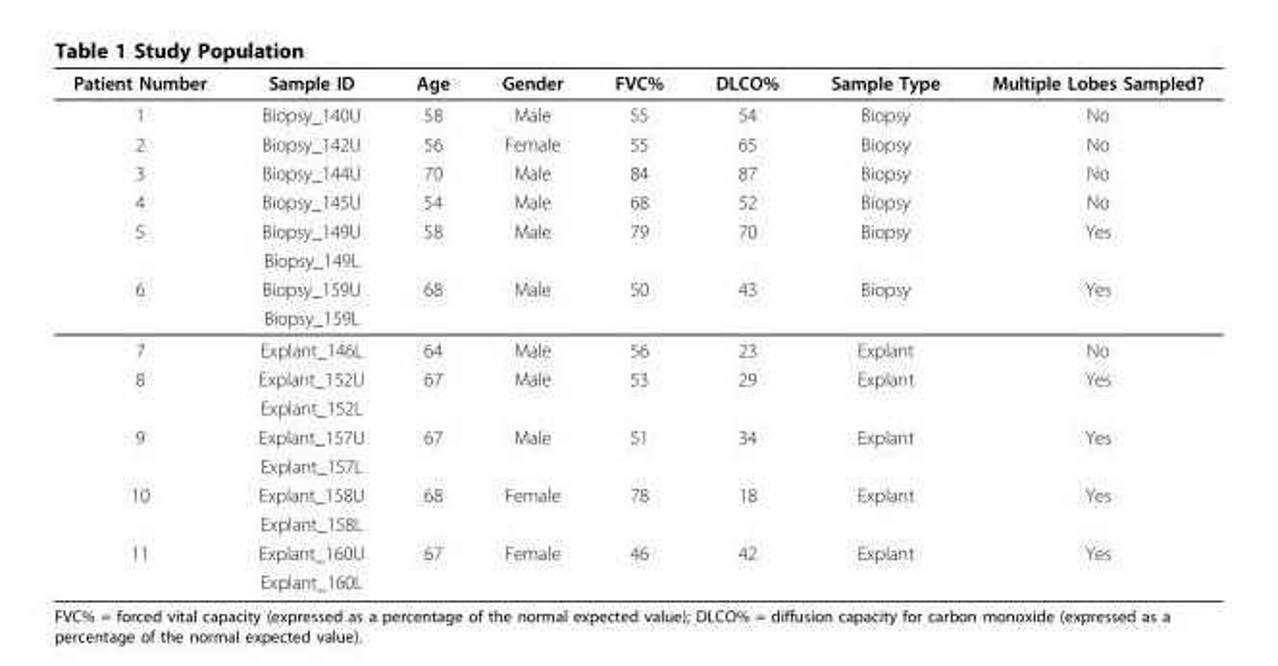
<table><thead><tr><td>Patient Number</td><td>Sample ID</td><td>Age</td><td>Gender</td><td>FVC%</td><td>DLCO%</td><td>Sample Type</td><td>Multiple Lobes Sampled?</td></tr></thead><tbody><tr><td>1</td><td>Biopsy_140U</td><td>58</td><td>Male</td><td>55</td><td>54</td><td>Biopsy</td><td>No</td></tr><tr><td>2</td><td>Biopsy_142U</td><td>56</td><td>Female</td><td>55</td><td>65</td><td>Biopsy</td><td>No</td></tr><tr><td>3</td><td>Biopsy_144U</td><td>70</td><td>Male</td><td>84</td><td>87</td><td>Biopsy</td><td>No</td></tr><tr><td>4</td><td>Biopsy_145U</td><td>54</td><td>Male</td><td>68</td><td>52</td><td>Biopsy</td><td>No</td></tr><tr><td rowspan="2">5</td><td>Biopsy_149U</td><td>58</td><td>Male</td><td>79</td><td>70</td><td>Biopsy</td><td>Yes</td></tr><tr><td>Biopsy_149L</td><td></td><td></td><td></td><td></td><td></td><td></td></tr><tr><td rowspan="2">6</td><td>Biopsy_159U</td><td>68</td><td>Male</td><td>50</td><td>43</td><td>Biopsy</td><td>Yes</td></tr><tr><td>Biopsy_159L</td><td></td><td></td><td></td><td></td><td></td><td></td></tr><tr><td>7</td><td>Explant_146L</td><td>64</td><td>Male</td><td>56</td><td>23</td><td>Explant</td><td>No</td></tr><tr><td rowspan="2">8</td><td>Explant_152U</td><td>67</td><td>Male</td><td>53</td><td>29</td><td>Explant</td><td>Yes</td></tr><tr><td>Explant_152L</td><td></td><td></td><td></td><td></td><td></td><td></td></tr><tr><td rowspan="2">9</td><td>Explant_157U</td><td>67</td><td>Male</td><td>51</td><td>34</td><td>Explant</td><td>Yes</td></tr><tr><td>Explant_157L</td><td></td><td></td><td></td><td></td><td></td><td></td></tr><tr><td rowspan="2">10</td><td>Explant_158U</td><td>68</td><td>Female</td><td>78</td><td>18</td><td>Explant</td><td>Yes</td></tr><tr><td>Explant_158L</td><td></td><td></td><td></td><td></td><td></td><td></td></tr><tr><td rowspan="2">11</td><td>Explant_160U</td><td>67</td><td>Female</td><td>46</td><td>42</td><td>Explant</td><td>Yes</td></tr><tr><td>Explant_160L</td><td></td><td></td><td></td><td></td><td></td><td></td></tr></tbody></table>